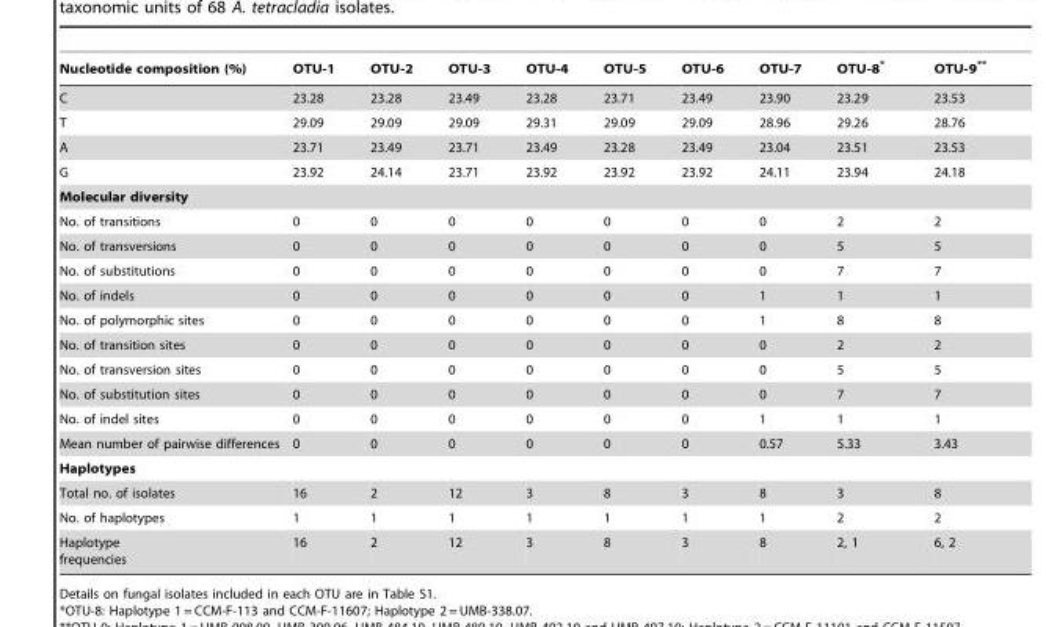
<table><thead><tr><td>Nucleotide composition (%)</td><td>OTU-1</td><td>OTU-2</td><td>OTU-3</td><td>OTU-4</td><td>OTU-5</td><td>OTU-6</td><td>OTU-7</td><td>OTU-8*</td><td>OTU-9**</td></tr></thead><tbody><tr><td>C</td><td>23.28</td><td>23.28</td><td>23.49</td><td>23.28</td><td>23.71</td><td>23.49</td><td>23.90</td><td>23.29</td><td>23.53</td></tr><tr><td>T</td><td>29.09</td><td>29.09</td><td>29.09</td><td>29.31</td><td>29.09</td><td>29.09</td><td>28.96</td><td>29.26</td><td>28.76</td></tr><tr><td>A</td><td>23.71</td><td>23.49</td><td>23.71</td><td>23.49</td><td>23.28</td><td>23.49</td><td>23.04</td><td>23.51</td><td>23.53</td></tr><tr><td>G</td><td>23.92</td><td>24.14</td><td>23.71</td><td>23.92</td><td>23.92</td><td>23.92</td><td>24.11</td><td>23.94</td><td>24.18</td></tr><tr><td colspan="10">Molecular diversity</td></tr><tr><td>No. of transitions</td><td>0</td><td>0</td><td>0</td><td>0</td><td>0</td><td>0</td><td>0</td><td>2</td><td>2</td></tr><tr><td>No. of transversions</td><td>0</td><td>0</td><td>0</td><td>0</td><td>0</td><td>0</td><td>0</td><td>5</td><td>5</td></tr><tr><td>No. of substitutions</td><td>0</td><td>0</td><td>0</td><td>0</td><td>0</td><td>0</td><td>0</td><td>7</td><td>7</td></tr><tr><td>No. of indels</td><td>0</td><td>0</td><td>0</td><td>0</td><td>0</td><td>0</td><td>1</td><td>1</td><td>1</td></tr><tr><td>No. of polymorphic sites</td><td>0</td><td>0</td><td>0</td><td>0</td><td>0</td><td>0</td><td>1</td><td>8</td><td>8</td></tr><tr><td>No. of transition sites</td><td>0</td><td>0</td><td>0</td><td>0</td><td>0</td><td>0</td><td>0</td><td>2</td><td>2</td></tr><tr><td>No. of transversion sites</td><td>0</td><td>0</td><td>0</td><td>0</td><td>0</td><td>0</td><td>0</td><td>5</td><td>5</td></tr><tr><td>No. of substitution sites</td><td>0</td><td>0</td><td>0</td><td>0</td><td>0</td><td>0</td><td>0</td><td>7</td><td>7</td></tr><tr><td>No. of indel sites</td><td>0</td><td>0</td><td>0</td><td>0</td><td>0</td><td>0</td><td>1</td><td>1</td><td>1</td></tr><tr><td>Mean number of pairwise differences</td><td>0</td><td>0</td><td>0</td><td>0</td><td>0</td><td>0</td><td>0.57</td><td>5.33</td><td>3.43</td></tr><tr><td colspan="10">Haplotypes</td></tr><tr><td>Total no. of isolates</td><td>16</td><td>2</td><td>12</td><td>3</td><td>8</td><td>3</td><td>8</td><td>3</td><td>8</td></tr><tr><td>No. of haplotypes</td><td>1</td><td>1</td><td>1</td><td>1</td><td>1</td><td>1</td><td>1</td><td>2</td><td>2</td></tr><tr><td>Haplotype frequencies</td><td>16</td><td>2</td><td>12</td><td>3</td><td>8</td><td>3</td><td>8</td><td>2, 1</td><td>6, 2</td></tr></tbody></table>